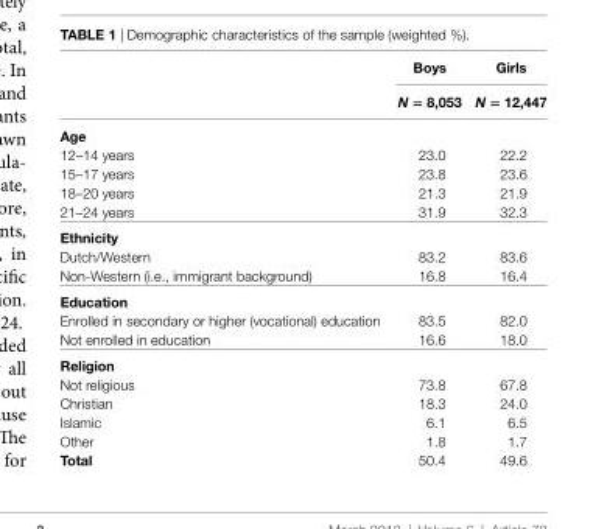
<table><thead><tr><td rowspan="2"></td><td rowspan="2">Boys N = 8,053</td><td rowspan="2">girls N = 12,447</td></tr><tr></tr></thead><tbody><tr><td colspan="3">age</td></tr><tr><td>12–14 years</td><td>23.0</td><td>22.2</td></tr><tr><td>15–17 years</td><td>23.8</td><td>23.6</td></tr><tr><td>18–20 years</td><td>21.3</td><td>21.9</td></tr><tr><td>21–24 years</td><td>31.9</td><td>32.3</td></tr><tr><td colspan="3">ethnicity</td></tr><tr><td>Dutch/Western</td><td>83.2</td><td>83.6</td></tr><tr><td>Non-Western (i.e., immigrant background)</td><td>16.8</td><td>16.4</td></tr><tr><td colspan="3">education</td></tr><tr><td>Enrolled in secondary or higher (vocational) education</td><td>83.5</td><td>82.0</td></tr><tr><td>Not enrolled in education</td><td>16.6</td><td>18.0</td></tr><tr><td colspan="3">religion</td></tr><tr><td>Not religious</td><td>73.8</td><td>67.8</td></tr><tr><td>Christian</td><td>18.3</td><td>24.0</td></tr><tr><td>Islamic</td><td>6.1</td><td>6.5</td></tr><tr><td>Other</td><td>1.8</td><td>1.7</td></tr><tr><td>Total</td><td>50.4</td><td>49.6</td></tr></tbody></table>